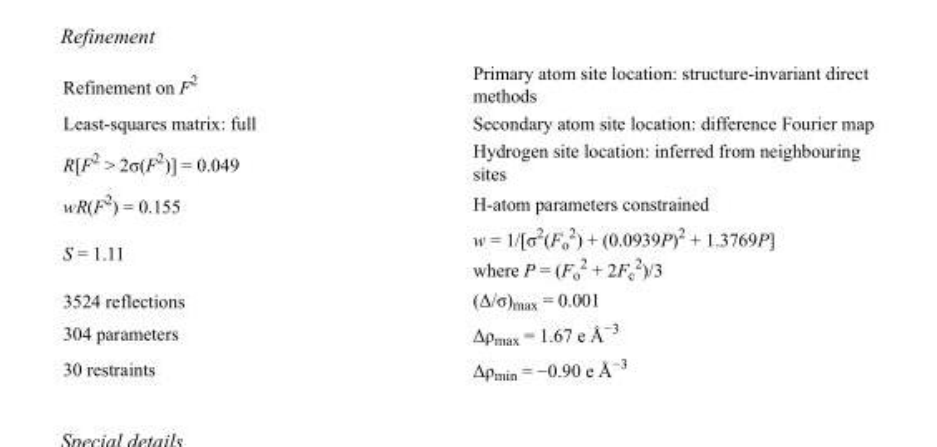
<table><tbody><tr><td>Refinement on F<sup>2</sup></td><td>Primary atom site location: structure-invariant direct methods</td></tr><tr><td>Least-squares matrix: full</td><td>Secondary atom site location: difference Fourier map</td></tr><tr><td>R[F<sup>2</sup> &gt; 2σ(F<sup>2</sup>)] = 0.049</td><td>Hydrogen site location: inferred from neighbouring sites</td></tr><tr><td>wR(F<sup>2</sup>) = 0.155</td><td>H-atom parameters constrained</td></tr><tr><td>S = 1.11</td><td>w = 1/[σ<sup>2</sup>(F<sub>o</sub> <sup>2</sup>) + (0.0939P)<sup>2</sup> + 1.3769P] where P = (F<sub>o</sub> <sup>2</sup> + 2F<sub>c</sub> <sup>2</sup>)/3</td></tr><tr><td>3524 reflections</td><td>(Δ/σ)<sub>max</sub> = 0.001</td></tr><tr><td>304 parameters</td><td>Δρ<sub>max</sub> = 1.67 e Å<sup>−3</sup></td></tr><tr><td>30 restraints</td><td>Δρ<sub>min</sub> = −0.90 e Å<sup>−3</sup></td></tr></tbody></table>